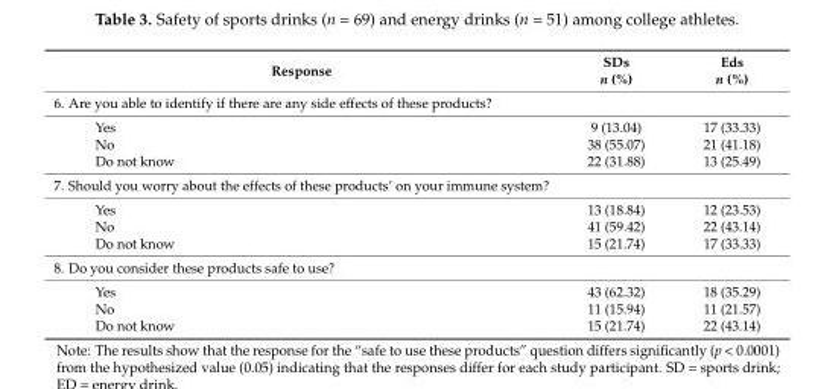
<table><thead><tr><td>Response</td><td>SDs n (%)</td><td>Eds n (%)</td></tr></thead><tbody><tr><td colspan="3">6. Are you able to identify if there are any side effects of these products?</td></tr><tr><td>Yes</td><td>9 (13.04)</td><td>17 (33.33)</td></tr><tr><td>No</td><td>38 (55.07)</td><td>21 (41.18)</td></tr><tr><td>Do not know</td><td>22 (31.88)</td><td>13 (25.49)</td></tr><tr><td colspan="3">7. Should you worry about the effects of these products’ on your immune system?</td></tr><tr><td>Yes</td><td>13 (18.84)</td><td>12 (23.53)</td></tr><tr><td>No</td><td>41 (59.42)</td><td>22 (43.14)</td></tr><tr><td>Do not know</td><td>15 (21.74)</td><td>17 (33.33)</td></tr><tr><td colspan="3">8. Do you consider these products safe to use?</td></tr><tr><td>Yes</td><td>43 (62.32)</td><td>18 (35.29)</td></tr><tr><td>No</td><td>11 (15.94)</td><td>11 (21.57)</td></tr><tr><td>Do not know</td><td>15 (21.74)</td><td>22 (43.14)</td></tr></tbody></table>